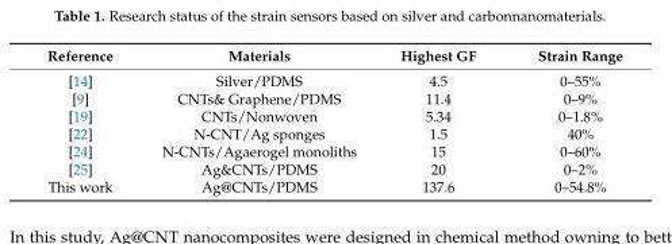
<table><thead><tr><td>Reference</td><td>Materials</td><td>Highest GF</td><td>Strain Range</td></tr></thead><tbody><tr><td>[14]</td><td>Silver/PDMS</td><td>4.5</td><td>0–55%</td></tr><tr><td>[9]</td><td>CNTs&amp; Graphene/PDMS</td><td>11.4</td><td>0–9%</td></tr><tr><td>[19]</td><td>CNTs/Nonwoven</td><td>5.34</td><td>0–1.8%</td></tr><tr><td>[22]</td><td>N-CNT/Ag sponges</td><td>1.5</td><td>40%</td></tr><tr><td>[24]</td><td>N-CNTs/Agaerogel monoliths</td><td>15</td><td>0–60%</td></tr><tr><td>[25]</td><td>Ag&amp;CNTs/PDMS</td><td>20</td><td>0–2%</td></tr><tr><td>This work</td><td>Ag@CNTs/PDMS</td><td>137.6</td><td>0–54.8%</td></tr></tbody></table>